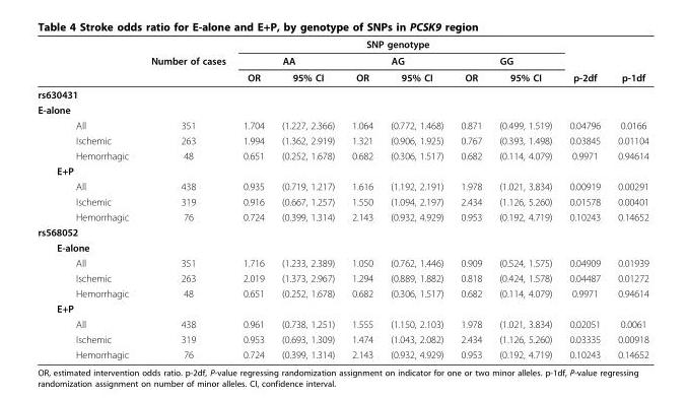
<table><thead><tr><td rowspan="3"></td><td rowspan="3">Number of cases</td><td colspan="6">SNP genotype</td><td rowspan="3">p-2df</td><td rowspan="3">p-1df</td></tr><tr><td colspan="2">AA</td><td colspan="2">AG</td><td colspan="2">GG</td></tr><tr><td>OR</td><td>95% CI</td><td>OR</td><td>95% CI</td><td>OR</td><td>95% CI</td></tr></thead><tbody><tr><td colspan="10">rs630431</td></tr><tr><td colspan="10">E-alone</td></tr><tr><td>All</td><td>351</td><td>1.704</td><td>(1.227, 2.366)</td><td>1.064</td><td>(0.772, 1.468)</td><td>0.871</td><td>(0.499, 1.519)</td><td>0.04796</td><td>0.0166</td></tr><tr><td>Ischemic</td><td>263</td><td>1.994</td><td>(1.362, 2.919)</td><td>1.321</td><td>(0.906, 1.925)</td><td>0.767</td><td>(0.393, 1.498)</td><td>0.03845</td><td>0.01104</td></tr><tr><td>Hemorrhagic</td><td>48</td><td>0.651</td><td>(0.252, 1.678)</td><td>0.682</td><td>(0.306, 1.517)</td><td>0.682</td><td>(0.114, 4.079)</td><td>0.9971</td><td>0.94614</td></tr><tr><td colspan="10">E+P</td></tr><tr><td>All</td><td>438</td><td>0.935</td><td>(0.719, 1.217)</td><td>1.616</td><td>(1.192, 2.191)</td><td>1.978</td><td>(1.021, 3.834)</td><td>0.00919</td><td>0.00291</td></tr><tr><td>Ischemic</td><td>319</td><td>0.916</td><td>(0.667, 1.257)</td><td>1.550</td><td>(1.094, 2.197)</td><td>2.434</td><td>(1.126, 5.260)</td><td>0.01578</td><td>0.00401</td></tr><tr><td>Hemorrhagic</td><td>76</td><td>0.724</td><td>(0.399, 1.314)</td><td>2.143</td><td>(0.932, 4.929)</td><td>0.953</td><td>(0.192, 4.719)</td><td>0.10243</td><td>0.14652</td></tr><tr><td colspan="10">rs568052</td></tr><tr><td colspan="10">E-alone</td></tr><tr><td>All</td><td>351</td><td>1.716</td><td>(1.233, 2.389)</td><td>1.050</td><td>(0.762, 1.446)</td><td>0.909</td><td>(0.524, 1.575)</td><td>0.04909</td><td>0.01939</td></tr><tr><td>Ischemic</td><td>263</td><td>2.019</td><td>(1.373, 2.967)</td><td>1.294</td><td>(0.889, 1.882)</td><td>0.818</td><td>(0.424, 1.578)</td><td>0.04487</td><td>0.01272</td></tr><tr><td>Hemorrhagic</td><td>48</td><td>0.651</td><td>(0.252, 1.678)</td><td>0.682</td><td>(0.306, 1.517)</td><td>0.682</td><td>(0.114, 4.079)</td><td>0.9971</td><td>0.94614</td></tr><tr><td colspan="10">E+P</td></tr><tr><td>All</td><td>438</td><td>0.961</td><td>(0.738, 1.251)</td><td>1.555</td><td>(1.150, 2.103)</td><td>1.978</td><td>(1.021, 3.834)</td><td>0.02051</td><td>0.0061</td></tr><tr><td>Ischemic</td><td>319</td><td>0.953</td><td>(0.693, 1.309)</td><td>1.474</td><td>(1.043, 2.082)</td><td>2.434</td><td>(1.126, 5.260)</td><td>0.03335</td><td>0.00918</td></tr><tr><td>Hemorrhagic</td><td>76</td><td>0.724</td><td>(0.399, 1.314)</td><td>2.143</td><td>(0.932, 4.929)</td><td>0.953</td><td>(0.192, 4.719)</td><td>0.10243</td><td>0.14652</td></tr></tbody></table>